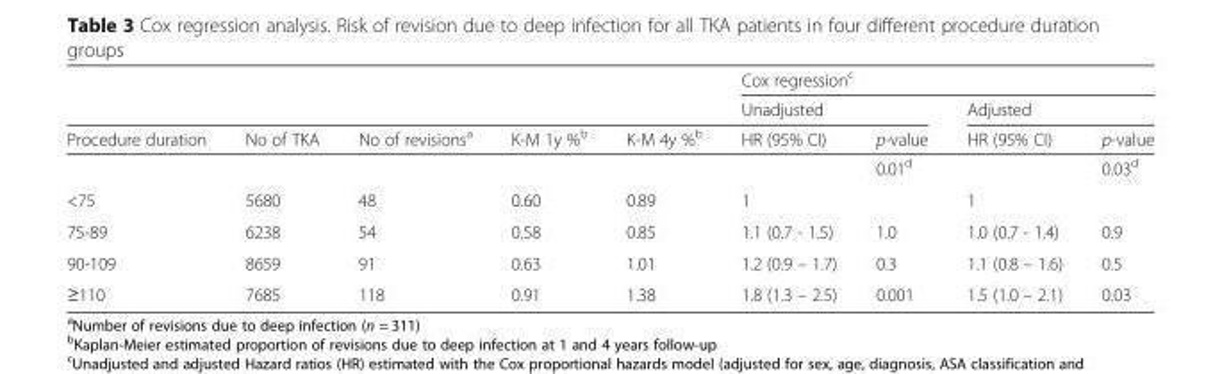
<table><thead><tr><td rowspan="3">Procedure duration</td><td rowspan="3">No of TKA</td><td rowspan="3">No of revisions<sup>a</sup></td><td rowspan="3">K-M 1y %<sup>b</sup></td><td rowspan="3">K-M 4y %<sup>b</sup></td><td colspan="4">Cox regression<sup>c</sup></td></tr><tr><td colspan="2">Unadjusted</td><td colspan="2">Adjusted</td></tr><tr><td>HR (95% CI)</td><td>p-value</td><td>HR (95% CI)</td><td>p-value</td></tr></thead><tbody><tr><td></td><td></td><td></td><td></td><td></td><td></td><td>0.01<sup>d</sup></td><td></td><td>0.03<sup>d</sup></td></tr><tr><td>&lt;75</td><td>5680</td><td>48</td><td>0.60</td><td>0.89</td><td>1</td><td></td><td>1</td><td></td></tr><tr><td>75-89</td><td>6238</td><td>54</td><td>0.58</td><td>0.85</td><td>1.1 (0.7 - 1.5)</td><td>1.0</td><td>1.0 (0.7 - 1.4)</td><td>0.9</td></tr><tr><td>90-109</td><td>8659</td><td>91</td><td>0.63</td><td>1.01</td><td>1.2 (0.9 – 1.7)</td><td>0.3</td><td>1.1 (0.8 – 1.6)</td><td>0.5</td></tr><tr><td>≥110</td><td>7685</td><td>118</td><td>0.91</td><td>1.38</td><td>1.8 (1.3 – 2.5)</td><td>0.001</td><td>1.5 (1.0 – 2.1)</td><td>0.03</td></tr></tbody></table>